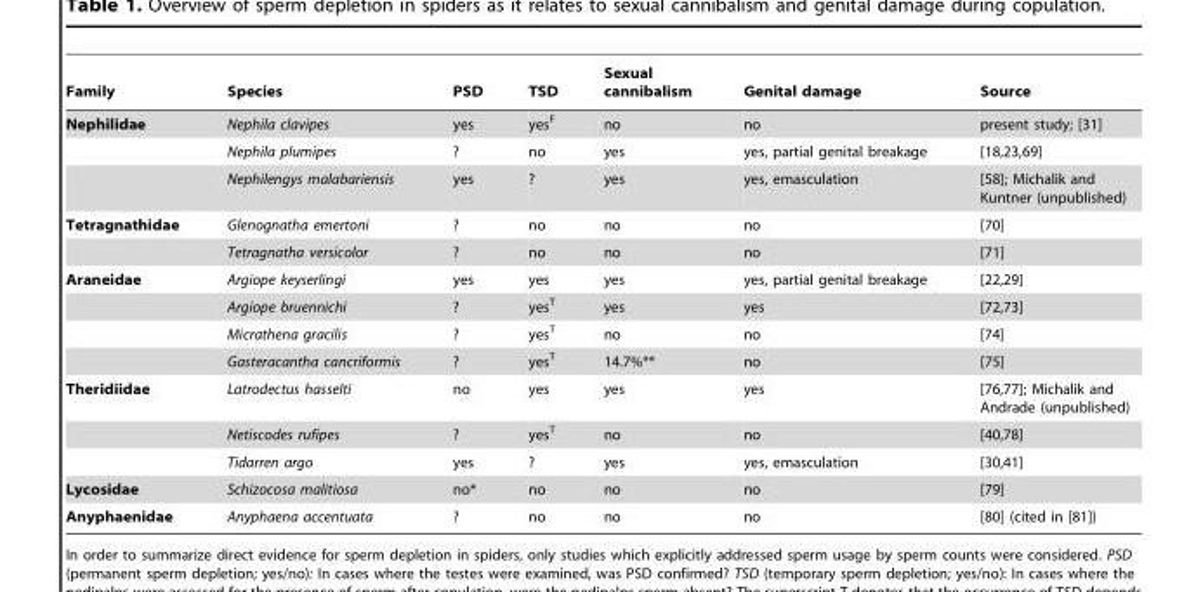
<table><thead><tr><td>Family</td><td>Species</td><td>PSD</td><td>TSD</td><td>Sexual cannibalism</td><td>Genital damage</td><td>Source</td></tr></thead><tbody><tr><td rowspan="3">Nephilidae</td><td>Nephila clavipes</td><td>yes</td><td>yes<sup>F</sup></td><td>no</td><td>no</td><td>present study; [31]</td></tr><tr><td>Nephila plumipes</td><td>?</td><td>no</td><td>yes</td><td>yes, partial genital breakage</td><td>[18,23,69]</td></tr><tr><td>Nephilengys malabariensis</td><td>yes</td><td>?</td><td>yes</td><td>yes, emasculation</td><td>[58]; Michalik and Kuntner (unpublished)</td></tr><tr><td rowspan="2">Tetragnathidae</td><td>Glenognatha emertoni</td><td>?</td><td>no</td><td>no</td><td>no</td><td>[70]</td></tr><tr><td>Tetragnatha versicolor</td><td>?</td><td>no</td><td>no</td><td>no</td><td>[71]</td></tr><tr><td rowspan="4">Araneidae</td><td>Argiope keyserlingi</td><td>yes</td><td>yes</td><td>yes</td><td>yes, partial genital breakage</td><td>[22,29]</td></tr><tr><td>Argiope bruennichi</td><td>?</td><td>yes<sup>T</sup></td><td>yes</td><td>yes</td><td>[72,73]</td></tr><tr><td>Micrathena gracilis</td><td>?</td><td>yes<sup>T</sup></td><td>no</td><td>no</td><td>[74]</td></tr><tr><td>Gasteracantha cancriformis</td><td>?</td><td>yes<sup>T</sup></td><td>14.7%**</td><td>no</td><td>[75]</td></tr><tr><td rowspan="3">Theridiidae</td><td>Latrodectus hasselti</td><td>no</td><td>yes</td><td>yes</td><td>yes</td><td>[76,77]; Michalik and Andrade (unpublished)</td></tr><tr><td>Netiscodes rufipes</td><td>?</td><td>yes<sup>T</sup></td><td>no</td><td>no</td><td>[40,78]</td></tr><tr><td>Tidarren argo</td><td>yes</td><td>?</td><td>yes</td><td>yes, emasculation</td><td>[30,41]</td></tr><tr><td>Lycosidae</td><td>Schizocosa malitiosa</td><td>no*</td><td>no</td><td>no</td><td>no</td><td>[79]</td></tr><tr><td>Anyphaenidae</td><td>Anyphaena accentuata</td><td>?</td><td>no</td><td>no</td><td>no</td><td>[80] (cited in [81])</td></tr></tbody></table>